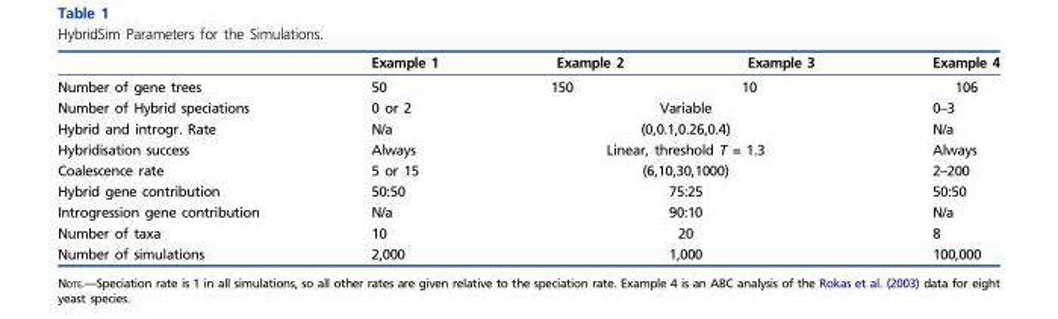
<table><thead><tr><td></td><td>Example 1</td><td>Example 2</td><td>Example 3</td><td>Example 4</td></tr></thead><tbody><tr><td>Number of gene trees</td><td>50</td><td>150</td><td>10</td><td>106</td></tr><tr><td>Number of Hybrid speciations</td><td>0 or 2</td><td colspan="2">Variable</td><td>0–3</td></tr><tr><td>Hybrid and introgr. Rate</td><td>N/a</td><td colspan="2">(0,0.1,0.26,0.4)</td><td>N/a</td></tr><tr><td>Hybridisation success</td><td>Always</td><td colspan="2">Linear, threshold T = 1.3</td><td>Always</td></tr><tr><td>Coalescence rate</td><td>5 or 15</td><td colspan="2">(6,10,30,1000)</td><td>2–200</td></tr><tr><td>Hybrid gene contribution</td><td>50:50</td><td colspan="2">75:25</td><td>50:50</td></tr><tr><td>Introgression gene contribution</td><td>N/a</td><td colspan="2">90:10</td><td>N/a</td></tr><tr><td>Number of taxa</td><td>10</td><td colspan="2">20</td><td>8</td></tr><tr><td>Number of simulations</td><td>2,000</td><td colspan="2">1,000</td><td>100,000</td></tr></tbody></table>